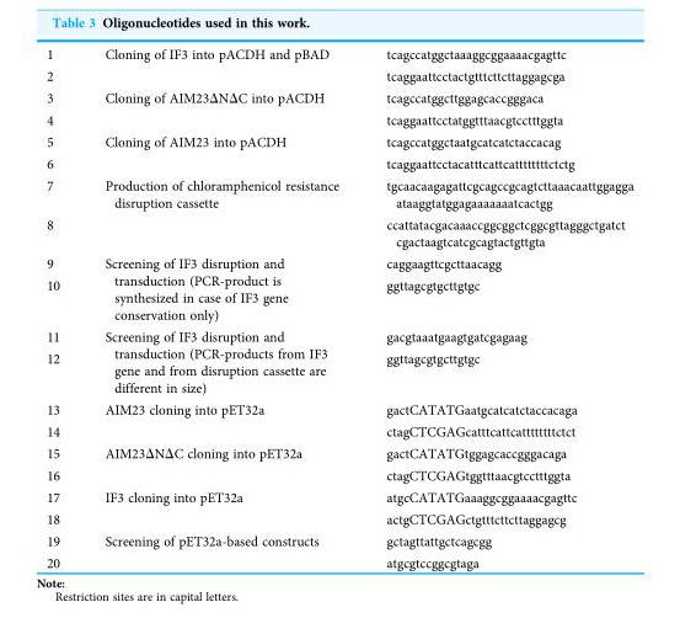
<table><tbody><tr><td>1</td><td rowspan="2">Cloning of IF3 into pACDH and pBAD</td><td>tcagccatggctaaaggcggaaaacgagttc</td></tr><tr><td>2</td><td>tcaggaattcctactgtttcttcttaggagcga</td></tr><tr><td>3</td><td rowspan="2">Cloning of AIM23ΔNΔC into pACDH</td><td>tcagccatggcttggagcaccgggaca</td></tr><tr><td>4</td><td>tcaggaattcctatggtttaacgtcctttggta</td></tr><tr><td>5</td><td rowspan="2">Cloning of AIM23 into pACDH</td><td>tcagccatggctaatgcatcatctaccacag</td></tr><tr><td>6</td><td>tcaggaattcctacatttcattcattttttttctctg</td></tr><tr><td>7</td><td rowspan="2">Production of chloramphenicol resistance disruption cassette</td><td>tgcaacaagagattcgcagccgcagtcttaaacaattggagga ataaggtatggagaaaaaaatcactgg</td></tr><tr><td>8</td><td>ccattatacgacaaaccggcggctcggcgttagggctgatct cgactaagtcatcgcagtactgttgta</td></tr><tr><td>9</td><td rowspan="2">Screening of IF3 disruption and transduction (PCR-product is synthesized in case of IF3 gene conservation only)</td><td>caggaagttcgcttaacagg</td></tr><tr><td>10</td><td>ggttagcgtgcttgtgc</td></tr><tr><td>11</td><td rowspan="2">Screening of IF3 disruption and transduction (PCR-products from IF3 gene and from disruption cassette are different in size)</td><td>gacgtaaatgaagtgatcgagaag</td></tr><tr><td>12</td><td>ggttagcgtgcttgtgc</td></tr><tr><td>13</td><td rowspan="2">AIM23 cloning into pET32a</td><td>gactCATATGaatgcatcatctaccacaga</td></tr><tr><td>14</td><td>ctagCTCGAGcatttcattcattttttttctct</td></tr><tr><td>15</td><td rowspan="2">AIM23ΔNΔC cloning into pET32a</td><td>gactCATATGtggagcaccgggacaga</td></tr><tr><td>16</td><td>ctagCTCGAGtggtttaacgtcctttggta</td></tr><tr><td>17</td><td rowspan="2">IF3 cloning into pET32a</td><td>atgcCATATGaaaggcggaaaacgagttc</td></tr><tr><td>18</td><td>actgCTCGAGctgtttcttcttaggagcg</td></tr><tr><td>19</td><td rowspan="2">Screening of pET32a-based constructs</td><td>gctagttattgctcagcgg</td></tr><tr><td>20</td><td>atgcgtccggcgtaga</td></tr></tbody></table>